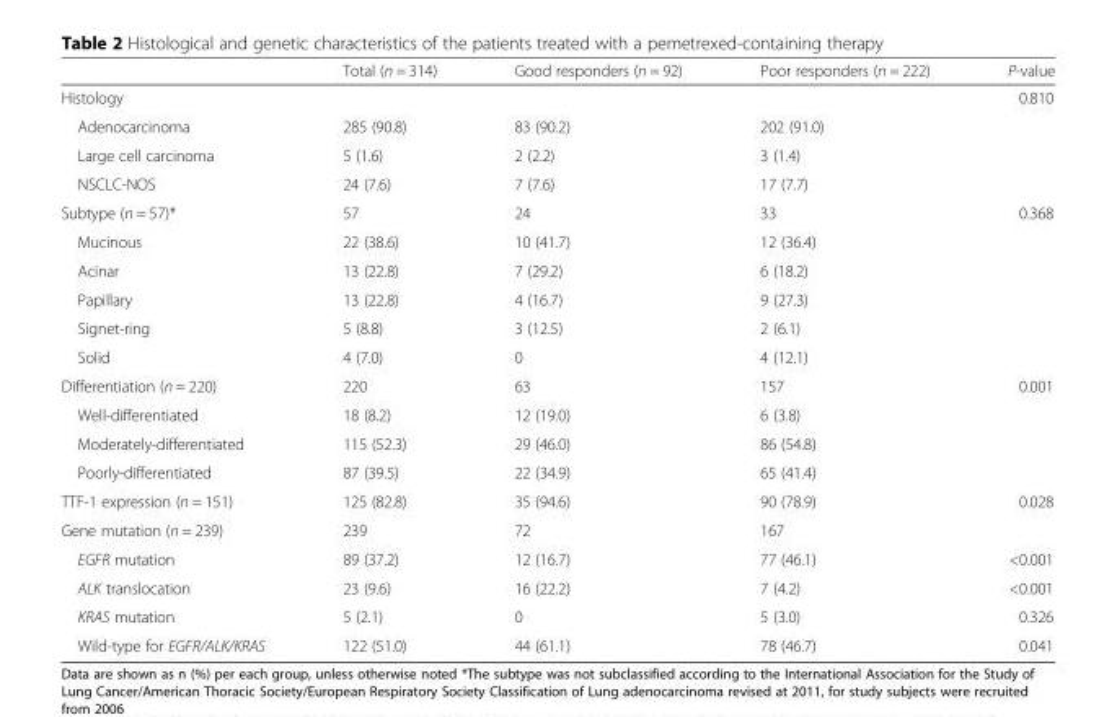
<table><thead><tr><td></td><td>Total (n = 314)</td><td>Good responders (n = 92)</td><td>Poor responders (n = 222)</td><td>P-value</td></tr></thead><tbody><tr><td>Histology</td><td></td><td></td><td></td><td>0.810</td></tr><tr><td>Adenocarcinoma</td><td>285 (90.8)</td><td>83 (90.2)</td><td>202 (91.0)</td><td></td></tr><tr><td>Large cell carcinoma</td><td>5 (1.6)</td><td>2 (2.2)</td><td>3 (1.4)</td><td></td></tr><tr><td>NSCLC-NOS</td><td>24 (7.6)</td><td>7 (7.6)</td><td>17 (7.7)</td><td></td></tr><tr><td>Subtype (n = 57)*</td><td>57</td><td>24</td><td>33</td><td>0.368</td></tr><tr><td>Mucinous</td><td>22 (38.6)</td><td>10 (41.7)</td><td>12 (36.4)</td><td></td></tr><tr><td>Acinar</td><td>13 (22.8)</td><td>7 (29.2)</td><td>6 (18.2)</td><td></td></tr><tr><td>Papillary</td><td>13 (22.8)</td><td>4 (16.7)</td><td>9 (27.3)</td><td></td></tr><tr><td>Signet-ring</td><td>5 (8.8)</td><td>3 (12.5)</td><td>2 (6.1)</td><td></td></tr><tr><td>Solid</td><td>4 (7.0)</td><td>0</td><td>4 (12.1)</td><td></td></tr><tr><td>Differentiation (n = 220)</td><td>220</td><td>63</td><td>157</td><td>0.001</td></tr><tr><td>Well-differentiated</td><td>18 (8.2)</td><td>12 (19.0)</td><td>6 (3.8)</td><td></td></tr><tr><td>Moderately-differentiated</td><td>115 (52.3)</td><td>29 (46.0)</td><td>86 (54.8)</td><td></td></tr><tr><td>Poorly-differentiated</td><td>87 (39.5)</td><td>22 (34.9)</td><td>65 (41.4)</td><td></td></tr><tr><td>TTF-1 expression (n = 151)</td><td>125 (82.8)</td><td>35 (94.6)</td><td>90 (78.9)</td><td>0.028</td></tr><tr><td>Gene mutation (n = 239)</td><td>239</td><td>72</td><td>167</td><td></td></tr><tr><td>EGFR mutation</td><td>89 (37.2)</td><td>12 (16.7)</td><td>77 (46.1)</td><td>&lt;0.001</td></tr><tr><td>ALK translocation</td><td>23 (9.6)</td><td>16 (22.2)</td><td>7 (4.2)</td><td>&lt;0.001</td></tr><tr><td>KRAS mutation</td><td>5 (2.1)</td><td>0</td><td>5 (3.0)</td><td>0.326</td></tr><tr><td>Wild-type for EGFR/ALK/KRAS</td><td>122 (51.0)</td><td>44 (61.1)</td><td>78 (46.7)</td><td>0.041</td></tr></tbody></table>